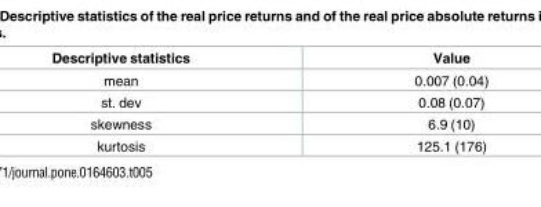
<table><thead><tr><td>Descriptive statistics</td><td>Value</td></tr></thead><tbody><tr><td>mean</td><td>0.007 (0.04)</td></tr><tr><td>st. dev</td><td>0.08 (0.07)</td></tr><tr><td>skewness</td><td>6.9 (10)</td></tr><tr><td>kurtosis</td><td>125.1 (176)</td></tr></tbody></table>